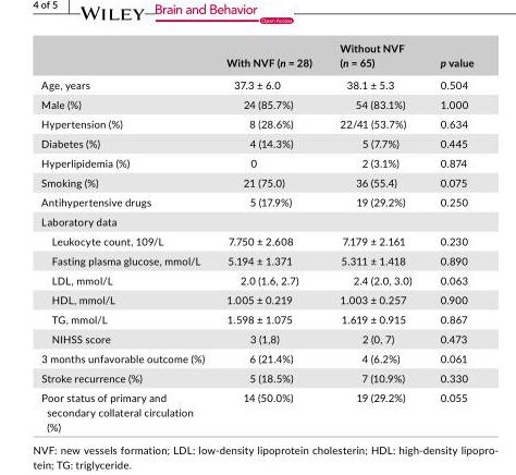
<table><thead><tr><td></td><td>With NVF (n = 28)</td><td>Without NVF (n = 65)</td><td>p value</td></tr></thead><tbody><tr><td>Age, years</td><td>37.3 ± 6.0</td><td>38.1 ± 5.3</td><td>0.504</td></tr><tr><td>Male (%)</td><td>24 (85.7%)</td><td>54 (83.1%)</td><td>1.000</td></tr><tr><td>Hypertension (%)</td><td>8 (28.6%)</td><td>22/41 (53.7%)</td><td>0.634</td></tr><tr><td>Diabetes (%)</td><td>4 (14.3%)</td><td>5 (7.7%)</td><td>0.445</td></tr><tr><td>Hyperlipidemia (%)</td><td>0</td><td>2 (3.1%)</td><td>0.874</td></tr><tr><td>Smoking (%)</td><td>21 (75.0)</td><td>36 (55.4)</td><td>0.075</td></tr><tr><td>Antihypertensive drugs</td><td>5 (17.9%)</td><td>19 (29.2%)</td><td>0.250</td></tr><tr><td colspan="4">Laboratory data</td></tr><tr><td>Leukocyte count, 109/L</td><td>7.750 ± 2.608</td><td>7.179 ± 2.161</td><td>0.230</td></tr><tr><td>Fasting plasma glucose, mmol/L</td><td>5.194 ± 1.371</td><td>5.311 ± 1.418</td><td>0.890</td></tr><tr><td>LDL, mmol/L</td><td>2.0 (1.6, 2.7)</td><td>2.4 (2.0, 3.0)</td><td>0.063</td></tr><tr><td>HDL, mmol/L</td><td>1.005 ± 0.219</td><td>1.003 ± 0.257</td><td>0.900</td></tr><tr><td>TG, mmol/L</td><td>1.598 ± 1.075</td><td>1.619 ± 0.915</td><td>0.867</td></tr><tr><td>NIHSS score</td><td>3 (1,8)</td><td>2 (0, 7)</td><td>0.473</td></tr><tr><td>3 months unfavorable outcome (%)</td><td>6 (21.4%)</td><td>4 (6.2%)</td><td>0.061</td></tr><tr><td>Stroke recurrence (%)</td><td>5 (18.5%)</td><td>7 (10.9%)</td><td>0.330</td></tr><tr><td>Poor status of primary and secondary collateral circulation (%)</td><td>14 (50.0%)</td><td>19 (29.2%)</td><td>0.055</td></tr></tbody></table>